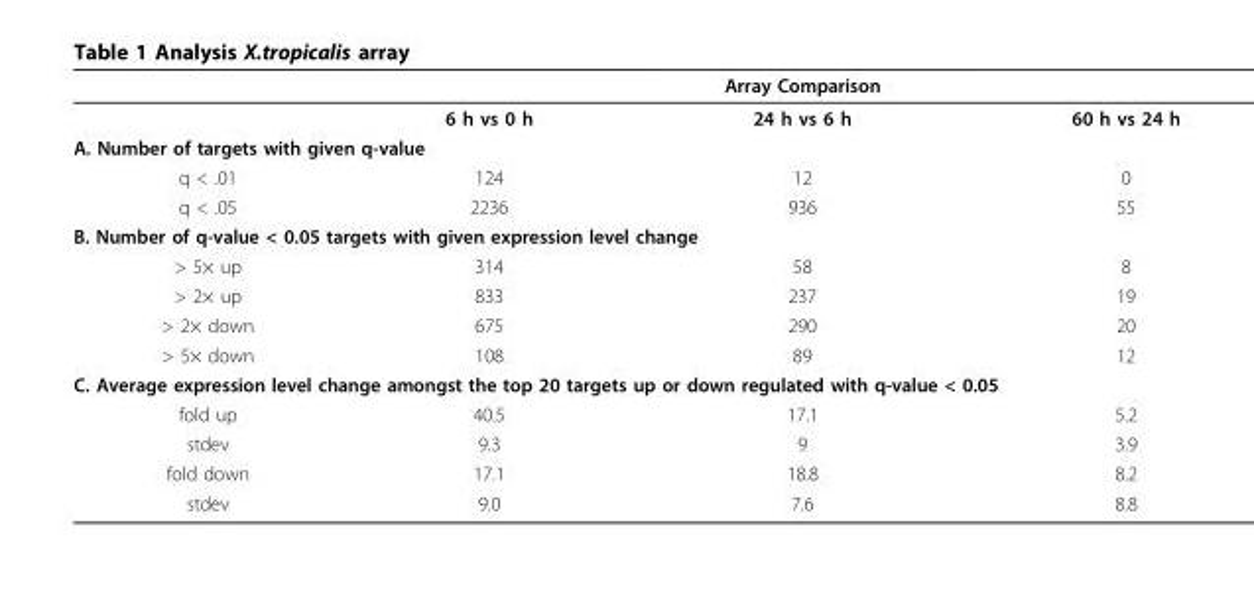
<table><thead><tr><td></td><td></td><td>Array Comparison</td><td></td></tr></thead><tbody><tr><td></td><td>6 h vs 0 h</td><td>24 h vs 6 h</td><td>60 h vs 24 h</td></tr><tr><td colspan="4">A. Number of targets with given q-value</td></tr><tr><td>q &lt; .01</td><td>124</td><td>12</td><td>0</td></tr><tr><td>q &lt; .05</td><td>2236</td><td>936</td><td>55</td></tr><tr><td colspan="4">B. Number of q-value &lt; 0.05 targets with given expression level change</td></tr><tr><td>&gt; 5× up</td><td>314</td><td>58</td><td>8</td></tr><tr><td>&gt; 2× up</td><td>833</td><td>237</td><td>19</td></tr><tr><td>&gt; 2× down</td><td>675</td><td>290</td><td>20</td></tr><tr><td>&gt; 5× down</td><td>108</td><td>89</td><td>12</td></tr><tr><td colspan="4">C. Average expression level change amongst the top 20 targets up or down regulated with q-value &lt; 0.05</td></tr><tr><td>fold up</td><td>40.5</td><td>17.1</td><td>5.2</td></tr><tr><td>stdev</td><td>9.3</td><td>9</td><td>3.9</td></tr><tr><td>fold down</td><td>17.1</td><td>18.8</td><td>8.2</td></tr><tr><td>stdev</td><td>9.0</td><td>7.6</td><td>8.8</td></tr></tbody></table>